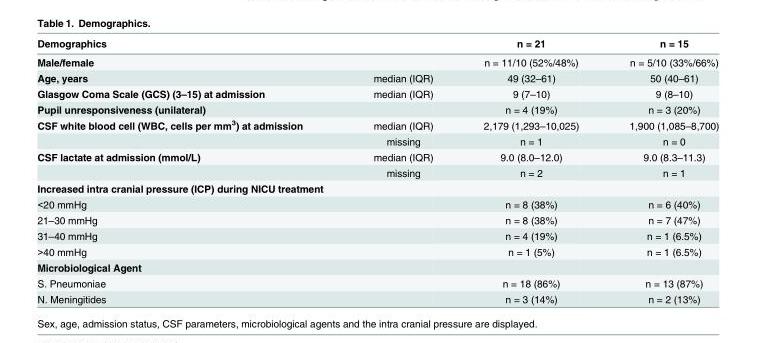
<table><thead><tr><td>Demographics</td><td></td><td>n = 21</td><td>n = 15</td></tr></thead><tbody><tr><td>Male/female</td><td></td><td>n = 11/10 (52%/48%)</td><td>n = 5/10 (33%/66%)</td></tr><tr><td>Age, years</td><td>median (IQR)</td><td>49 (32–61)</td><td>50 (40–61)</td></tr><tr><td>Glasgow Coma Scale (GCS) (3–15) at admission</td><td>median (IQR)</td><td>9 (7–10)</td><td>9 (8–10)</td></tr><tr><td>Pupil unresponsiveness (unilateral)</td><td></td><td>n = 4 (19%)</td><td>n = 3 (20%)</td></tr><tr><td rowspan="2">CSF white blood cell (WBC, cells per mm<sup>3</sup>) at admission</td><td>median (IQR)</td><td>2,179 (1,293–10,025)</td><td>1,900 (1,085–8,700)</td></tr><tr><td>missing</td><td>n = 1</td><td>n = 0</td></tr><tr><td rowspan="2">CSF lactate at admission (mmol/L)</td><td>median (IQR)</td><td>9.0 (8.0–12.0)</td><td>9.0 (8.3–11.3)</td></tr><tr><td>missing</td><td>n = 2</td><td>n = 1</td></tr><tr><td colspan="4">Increased intra cranial pressure (ICP) during NICU treatment</td></tr><tr><td>&lt;20 mmHg</td><td></td><td>n = 8 (38%)</td><td>n = 6 (40%)</td></tr><tr><td>21–30 mmHg</td><td></td><td>n = 8 (38%)</td><td>n = 7 (47%)</td></tr><tr><td>31–40 mmHg</td><td></td><td>n = 4 (19%)</td><td>n = 1 (6.5%)</td></tr><tr><td>&gt;40 mmHg</td><td></td><td>n = 1 (5%)</td><td>n = 1 (6.5%)</td></tr><tr><td colspan="4">Microbiological Agent</td></tr><tr><td>S. Pneumoniae</td><td></td><td>n = 18 (86%)</td><td>n = 13 (87%)</td></tr><tr><td>N. Meningitides</td><td></td><td>n = 3 (14%)</td><td>n = 2 (13%)</td></tr></tbody></table>